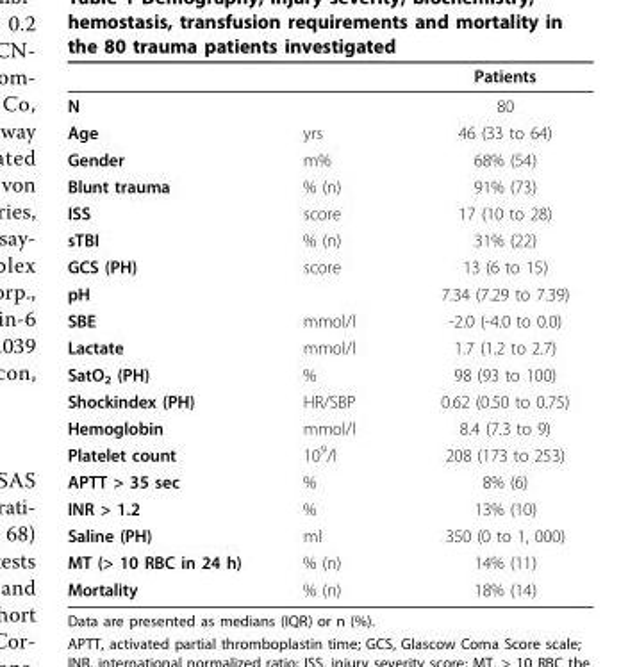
<table><thead><tr><td></td><td></td><td>Patients</td></tr></thead><tbody><tr><td>N</td><td></td><td>80</td></tr><tr><td>Age</td><td>yrs</td><td>46 (33 to 64)</td></tr><tr><td>Gender</td><td>m%</td><td>68% (54)</td></tr><tr><td>Blunt trauma</td><td>% (n)</td><td>91% (73)</td></tr><tr><td>ISS</td><td>score</td><td>17 (10 to 28)</td></tr><tr><td>sTBI</td><td>% (n)</td><td>31% (22)</td></tr><tr><td>GCS (PH)</td><td>score</td><td>13 (6 to 15)</td></tr><tr><td>pH</td><td></td><td>7.34 (7.29 to 7.39)</td></tr><tr><td>SBE</td><td>mmol/l</td><td>-2.0 (-4.0 to 0.0)</td></tr><tr><td>Lactate</td><td>mmol/l</td><td>1.7 (1.2 to 2.7)</td></tr><tr><td>SatO<sub>2</sub> (PH)</td><td>%</td><td>98 (93 to 100)</td></tr><tr><td>Shockindex (PH)</td><td>HR/SBP</td><td>0.62 (0.50 to 0.75)</td></tr><tr><td>Hemoglobin</td><td>mmol/l</td><td>8.4 (7.3 to 9)</td></tr><tr><td>Platelet count</td><td>10<sup>9</sup>/l</td><td>208 (173 to 253)</td></tr><tr><td>APTT &gt; 35 sec</td><td>%</td><td>8% (6)</td></tr><tr><td>INR &gt; 1.2</td><td>%</td><td>13% (10)</td></tr><tr><td>Saline (PH)</td><td>ml</td><td>350 (0 to 1, 000)</td></tr><tr><td>MT (&gt; 10 RBC in 24 h)</td><td>% (n)</td><td>14% (11)</td></tr><tr><td>Mortality</td><td>% (n)</td><td>18% (14)</td></tr></tbody></table>